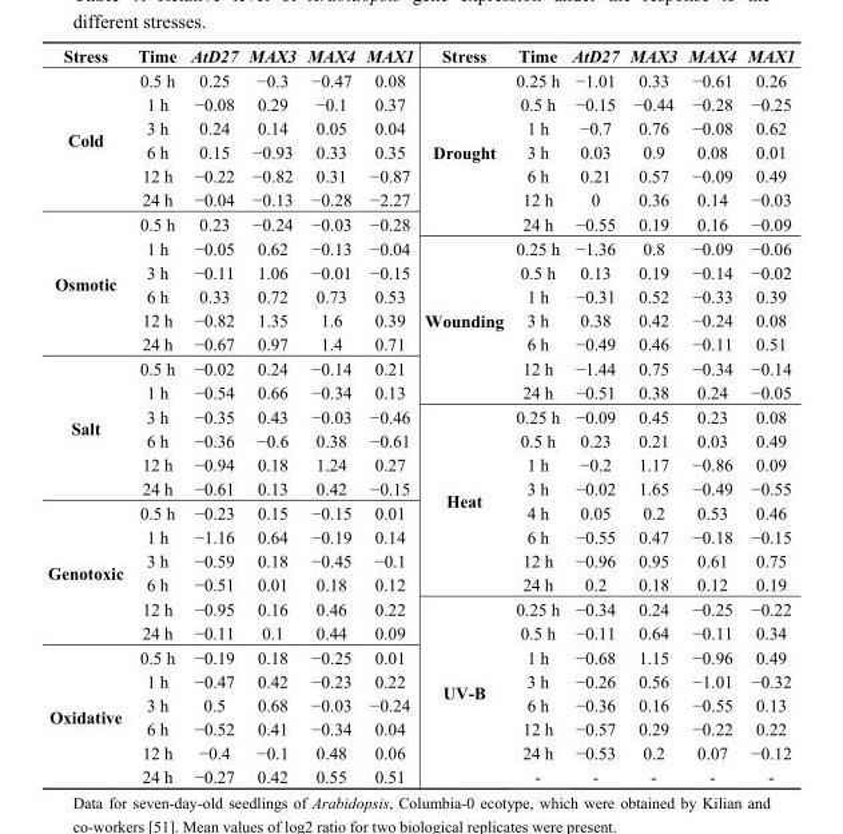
<table><thead><tr><td>Stress</td><td>Time</td><td>AtD27</td><td>MAX3</td><td>MAX4</td><td>MAX1</td><td>Stress</td><td>Time</td><td>AtD27</td><td>MAX3</td><td>MAX4</td><td>MAX1</td></tr></thead><tbody><tr><td rowspan="6">Cold</td><td>0.5 h</td><td>0.25</td><td>−0.3</td><td>−0.47</td><td>0.08</td><td rowspan="7">Drought</td><td>0.25 h</td><td>−1.01</td><td>0.33</td><td>−0.61</td><td>0.26</td></tr><tr><td>1 h</td><td>−0.08</td><td>0.29</td><td>−0.1</td><td>0.37</td><td>0.5 h</td><td>−0.15</td><td>−0.44</td><td>−0.28</td><td>−0.25</td></tr><tr><td>3 h</td><td>0.24</td><td>0.14</td><td>0.05</td><td>0.04</td><td>1 h</td><td>−0.7</td><td>0.76</td><td>−0.08</td><td>0.62</td></tr><tr><td>6 h</td><td>0.15</td><td>−0.93</td><td>0.33</td><td>0.35</td><td>3 h</td><td>0.03</td><td>0.9</td><td>0.08</td><td>0.01</td></tr><tr><td>12 h</td><td>−0.22</td><td>−0.82</td><td>0.31</td><td>−0.87</td><td>6 h</td><td>0.21</td><td>0.57</td><td>−0.09</td><td>0.49</td></tr><tr><td>24 h</td><td>−0.04</td><td>−0.13</td><td>−0.28</td><td>−2.27</td><td>12 h</td><td>0</td><td>0.36</td><td>0.14</td><td>−0.03</td></tr><tr><td rowspan="6">Osmotic</td><td>0.5 h</td><td>0.23</td><td>−0.24</td><td>−0.03</td><td>−0.28</td><td>24 h</td><td>−0.55</td><td>0.19</td><td>0.16</td><td>−0.09</td></tr><tr><td>1 h</td><td>−0.05</td><td>0.62</td><td>−0.13</td><td>−0.04</td><td rowspan="7">Wounding</td><td>0.25 h</td><td>−1.36</td><td>0.8</td><td>−0.09</td><td>−0.06</td></tr><tr><td>3 h</td><td>−0.11</td><td>1.06</td><td>−0.01</td><td>−0.15</td><td>0.5 h</td><td>0.13</td><td>0.19</td><td>−0.14</td><td>−0.02</td></tr><tr><td>6 h</td><td>0.33</td><td>0.72</td><td>0.73</td><td>0.53</td><td>1 h</td><td>−0.31</td><td>0.52</td><td>−0.33</td><td>0.39</td></tr><tr><td>12 h</td><td>−0.82</td><td>1.35</td><td>1.6</td><td>0.39</td><td>3 h</td><td>0.38</td><td>0.42</td><td>−0.24</td><td>0.08</td></tr><tr><td>24 h</td><td>−0.67</td><td>0.97</td><td>1.4</td><td>0.71</td><td>6 h</td><td>−0.49</td><td>0.46</td><td>−0.11</td><td>0.51</td></tr><tr><td rowspan="6">Salt</td><td>0.5 h</td><td>−0.02</td><td>0.24</td><td>−0.14</td><td>0.21</td><td>12 h</td><td>−1.44</td><td>0.75</td><td>−0.34</td><td>−0.14</td></tr><tr><td>1 h</td><td>−0.54</td><td>0.66</td><td>−0.34</td><td>0.13</td><td>24 h</td><td>−0.51</td><td>0.38</td><td>0.24</td><td>−0.05</td></tr><tr><td>3 h</td><td>−0.35</td><td>0.43</td><td>−0.03</td><td>−0.46</td><td rowspan="8">Heat</td><td>0.25 h</td><td>−0.09</td><td>0.45</td><td>0.23</td><td>0.08</td></tr><tr><td>6 h</td><td>−0.36</td><td>−0.6</td><td>0.38</td><td>−0.61</td><td>0.5 h</td><td>0.23</td><td>0.21</td><td>0.03</td><td>0.49</td></tr><tr><td>12 h</td><td>−0.94</td><td>0.18</td><td>1.24</td><td>0.27</td><td>1 h</td><td>−0.2</td><td>1.17</td><td>−0.86</td><td>0.09</td></tr><tr><td>24 h</td><td>−0.61</td><td>0.13</td><td>0.42</td><td>−0.15</td><td>3 h</td><td>−0.02</td><td>1.65</td><td>−0.49</td><td>−0.55</td></tr><tr><td rowspan="6">Genotoxic</td><td>0.5 h</td><td>−0.23</td><td>0.15</td><td>−0.15</td><td>0.01</td><td>4 h</td><td>0.05</td><td>0.2</td><td>0.53</td><td>0.46</td></tr><tr><td>1 h</td><td>−1.16</td><td>0.64</td><td>−0.19</td><td>0.14</td><td>6 h</td><td>−0.55</td><td>0.47</td><td>−0.18</td><td>−0.15</td></tr><tr><td>3 h</td><td>−0.59</td><td>0.18</td><td>−0.45</td><td>−0.1</td><td>12 h</td><td>−0.96</td><td>0.95</td><td>0.61</td><td>0.75</td></tr><tr><td>6 h</td><td>−0.51</td><td>0.01</td><td>0.18</td><td>0.12</td><td>24 h</td><td>0.2</td><td>0.18</td><td>0.12</td><td>0.19</td></tr><tr><td>12 h</td><td>−0.95</td><td>0.16</td><td>0.46</td><td>0.22</td><td rowspan="8">UV-B</td><td>0.25 h</td><td>−0.34</td><td>0.24</td><td>−0.25</td><td>−0.22</td></tr><tr><td>24 h</td><td>−0.11</td><td>0.1</td><td>0.44</td><td>0.09</td><td>0.5 h</td><td>−0.11</td><td>0.64</td><td>−0.11</td><td>0.34</td></tr><tr><td rowspan="6">Oxidative</td><td>0.5 h</td><td>−0.19</td><td>0.18</td><td>−0.25</td><td>0.01</td><td>1 h</td><td>−0.68</td><td>1.15</td><td>−0.96</td><td>0.49</td></tr><tr><td>1 h</td><td>−0.47</td><td>0.42</td><td>−0.23</td><td>0.22</td><td>3 h</td><td>−0.26</td><td>0.56</td><td>−1.01</td><td>−0.32</td></tr><tr><td>3 h</td><td>0.5</td><td>0.68</td><td>−0.03</td><td>−0.24</td><td>6 h</td><td>−0.36</td><td>0.16</td><td>−0.55</td><td>0.13</td></tr><tr><td>6 h</td><td>−0.52</td><td>0.41</td><td>−0.34</td><td>0.04</td><td>12 h</td><td>−0.57</td><td>0.29</td><td>−0.22</td><td>0.22</td></tr><tr><td>12 h</td><td>−0.4</td><td>−0.1</td><td>0.48</td><td>0.06</td><td>24 h</td><td>−0.53</td><td>0.2</td><td>0.07</td><td>−0.12</td></tr><tr><td>24 h</td><td>−0.27</td><td>0.42</td><td>0.55</td><td>0.51</td><td>-</td><td>-</td><td>-</td><td>-</td><td>-</td></tr></tbody></table>